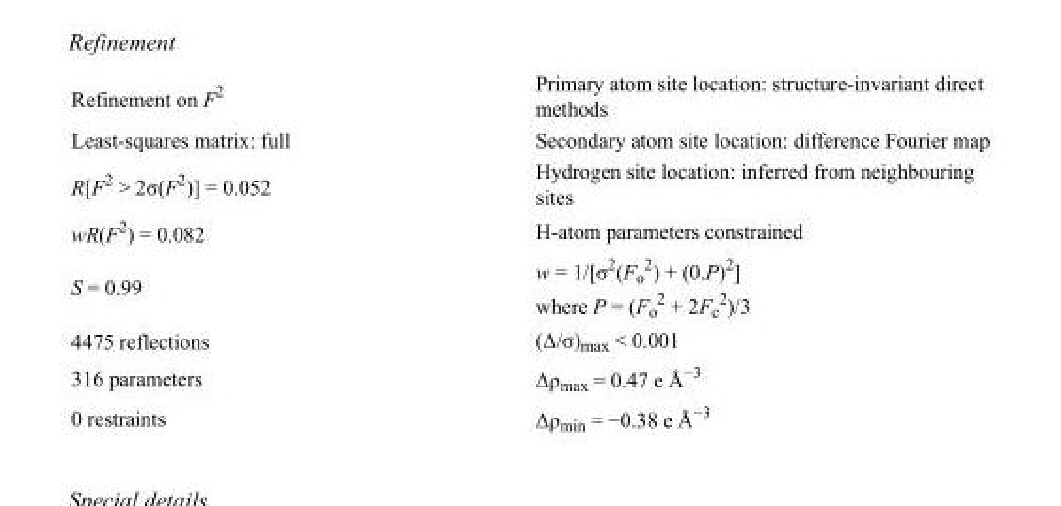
<table><tbody><tr><td>Refinement on F<sup>2</sup></td><td>Primary atom site location: structure-invariant direct methods</td></tr><tr><td>Least-squares matrix: full</td><td>Secondary atom site location: difference Fourier map</td></tr><tr><td>R[F<sup>2</sup> &gt; 2σ(F<sup>2</sup>)] = 0.052</td><td>Hydrogen site location: inferred from neighbouring sites</td></tr><tr><td>wR(F<sup>2</sup>) = 0.082</td><td>H-atom parameters constrained</td></tr><tr><td>S = 0.99</td><td>w = 1/[σ<sup>2</sup>(F<sub>o</sub> <sup>2</sup>) + (0.P)<sup>2</sup>] where P = (F<sub>o</sub> <sup>2</sup> + 2F<sub>c</sub> <sup>2</sup>)/3</td></tr><tr><td>4475 reflections</td><td>(Δ/σ)<sub>max</sub> &lt; 0.001</td></tr><tr><td>316 parameters</td><td>Δρ<sub>max</sub> = 0.47 e Å<sup>−3</sup></td></tr><tr><td>0 restraints</td><td>Δρ<sub>min</sub> = −0.38 e Å<sup>−3</sup></td></tr></tbody></table>